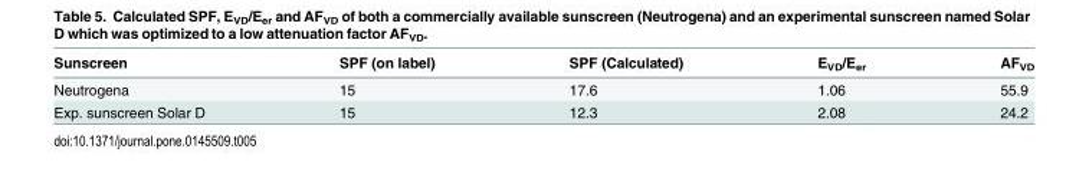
<table><thead><tr><td>Sunscreen</td><td>SPF (on label)</td><td>SPF (Calculated)</td><td>E<sub>VD</sub>/E<sub>er</sub></td><td>AF<sub>VD</sub></td></tr></thead><tbody><tr><td>Neutrogena</td><td>15</td><td>17.6</td><td>1.06</td><td>55.9</td></tr><tr><td>Exp. sunscreen Solar D</td><td>15</td><td>12.3</td><td>2.08</td><td>24.2</td></tr></tbody></table>